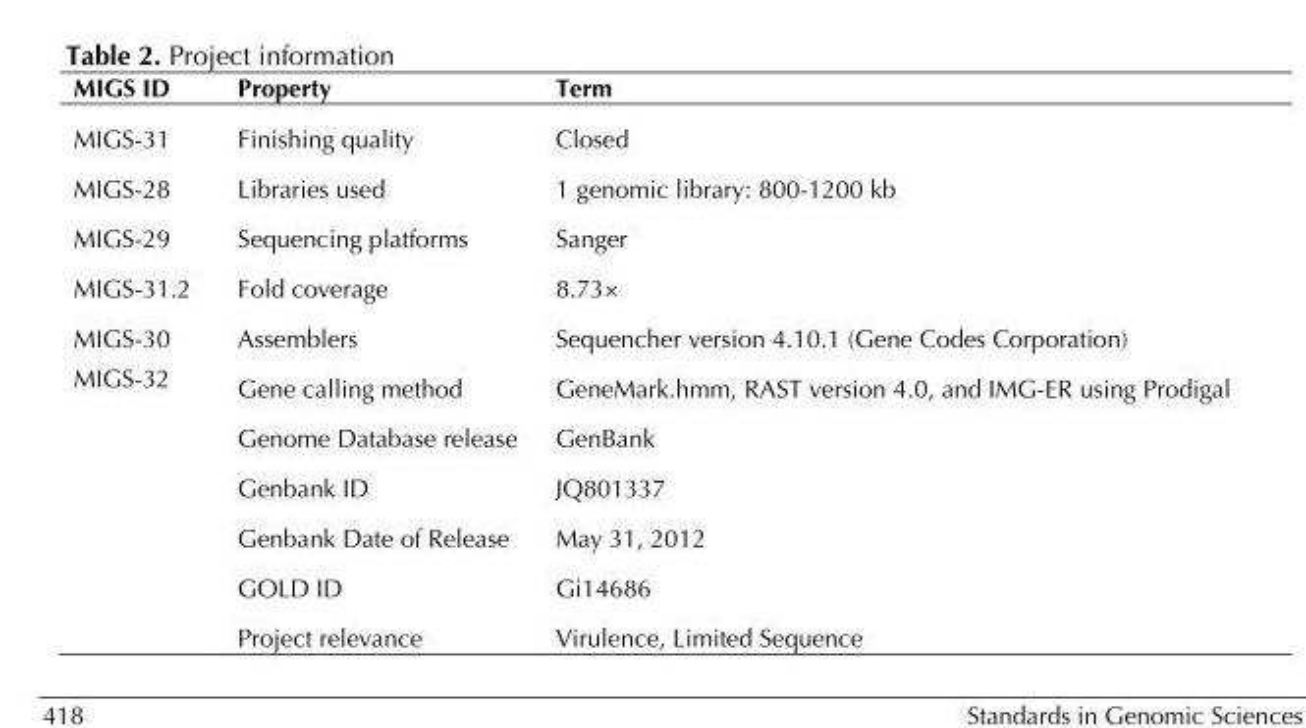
<table><thead><tr><td>MIGS ID</td><td>Property</td><td>Term</td></tr></thead><tbody><tr><td>MIGS-31</td><td>Finishing quality</td><td>Closed</td></tr><tr><td>MIGS-28</td><td>Libraries used</td><td>1 genomic library: 800-1200 kb</td></tr><tr><td>MIGS-29</td><td>Sequencing platforms</td><td>Sanger</td></tr><tr><td>MIGS-31.2</td><td>Fold coverage</td><td>8.73×</td></tr><tr><td>MIGS-30</td><td>Assemblers</td><td>Sequencher version 4.10.1 (Gene Codes Corporation)</td></tr><tr><td rowspan="6">MIGS-32</td><td>Gene calling method</td><td>GeneMark.hmm, RAST version 4.0, and IMG-ER using Prodigal</td></tr><tr><td>Genome Database release</td><td>GenBank</td></tr><tr><td>Genbank ID</td><td>JQ801337</td></tr><tr><td>Genbank Date of Release</td><td>May 31, 2012</td></tr><tr><td>GOLD ID</td><td>Gi14686</td></tr><tr><td>Project relevance</td><td>Virulence, Limited Sequence</td></tr></tbody></table>